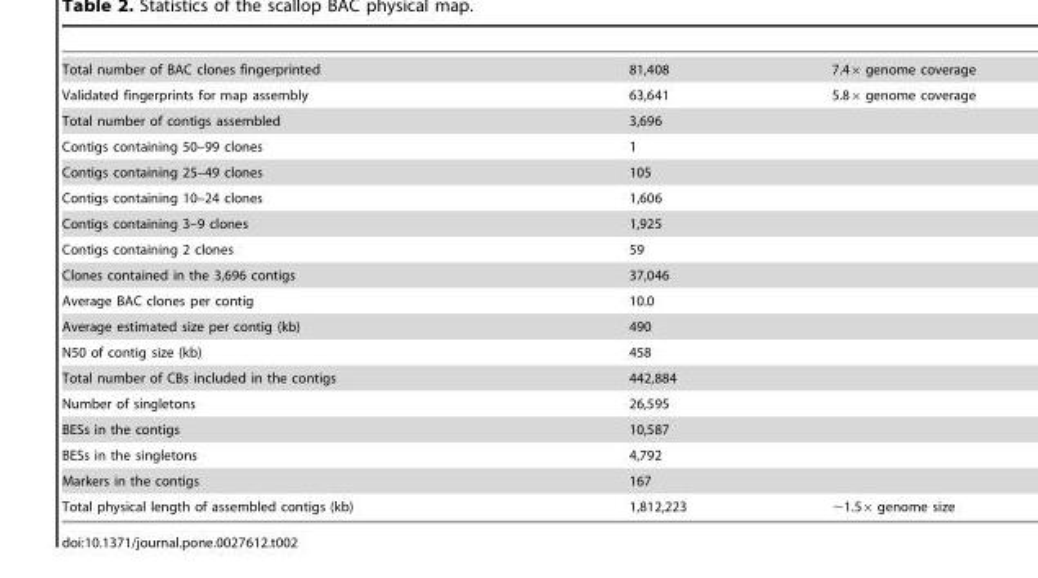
<table><tbody><tr><td>Total number of BAC clones fingerprinted</td><td>81,408</td><td>7.4× genome coverage</td></tr><tr><td>Validated fingerprints for map assembly</td><td>63,641</td><td>5.8× genome coverage</td></tr><tr><td>Total number of contigs assembled</td><td>3,696</td><td></td></tr><tr><td>Contigs containing 50–99 clones</td><td>1</td><td></td></tr><tr><td>Contigs containing 25–49 clones</td><td>105</td><td></td></tr><tr><td>Contigs containing 10–24 clones</td><td>1,606</td><td></td></tr><tr><td>Contigs containing 3–9 clones</td><td>1,925</td><td></td></tr><tr><td>Contigs containing 2 clones</td><td>59</td><td></td></tr><tr><td>Clones contained in the 3,696 contigs</td><td>37,046</td><td></td></tr><tr><td>Average BAC clones per contig</td><td>10.0</td><td></td></tr><tr><td>Average estimated size per contig (kb)</td><td>490</td><td></td></tr><tr><td>N50 of contig size (kb)</td><td>458</td><td></td></tr><tr><td>Total number of CBs included in the contigs</td><td>442,884</td><td></td></tr><tr><td>Number of singletons</td><td>26,595</td><td></td></tr><tr><td>BESs in the contigs</td><td>10,587</td><td></td></tr><tr><td>BESs in the singletons</td><td>4,792</td><td></td></tr><tr><td>Markers in the contigs</td><td>167</td><td></td></tr><tr><td>Total physical length of assembled contigs (kb)</td><td>1,812,223</td><td>∼1.5× genome size</td></tr></tbody></table>